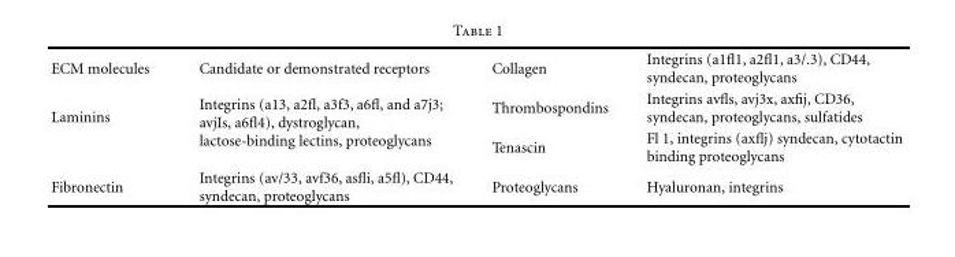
<table><tbody><tr><td>ECM molecules</td><td>Candidate or demonstrated receptors</td><td>Collagen</td><td>Integrins (a1fl1, a2fl1, a3/.3), CD44, syndecan, proteoglycans</td></tr><tr><td rowspan="2">Laminins</td><td rowspan="2">Integrins (a13, a2fl, a3f3, a6fl, and a7j3; avjIs, a6fl4), dystroglycan, lactose-binding lectins, proteoglycans</td><td>Thrombospondins</td><td>Integrins avfls, avj3x, axfij, CD36, syndecan, proteoglycans, sulfatides</td></tr><tr><td>Tenascin</td><td>Fl 1, integrins (axflj) syndecan, cytotactin binding proteoglycans</td></tr><tr><td>Fibronectin</td><td>Integrins (av/33, avf36, asfli, a5fl), CD44, syndecan, proteoglycans</td><td>Proteoglycans</td><td>Hyaluronan, integrins</td></tr></tbody></table>